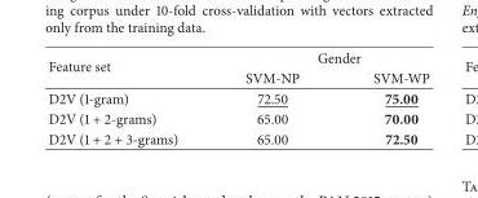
<table><thead><tr><td rowspan="2">Feature set</td><td colspan="2">Gender</td></tr><tr><td>SVM-NP</td><td>SVM-WP</td></tr></thead><tbody><tr><td>D2V (1-gram)</td><td>72.50</td><td>75.00</td></tr><tr><td>D2V (1 + 2-grams)</td><td>65.00</td><td>70.00</td></tr><tr><td>D2V (1 + 2 + 3-grams)</td><td>65.00</td><td>72.50</td></tr></tbody></table>